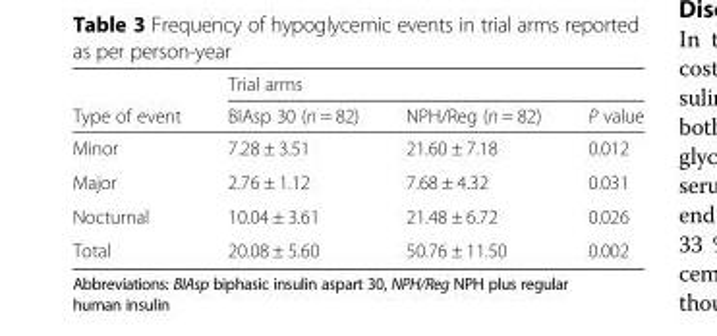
<table><thead><tr><td rowspan="2">Type of event</td><td colspan="3">Trial arms</td></tr><tr><td>BIAsp 30 (n = 82)</td><td>NPH/Reg (n = 82)</td><td>P value</td></tr></thead><tbody><tr><td>Minor</td><td>7.28 ± 3.51</td><td>21.60 ± 7.18</td><td>0.012</td></tr><tr><td>Major</td><td>2.76 ± 1.12</td><td>7.68 ± 4.32</td><td>0.031</td></tr><tr><td>Nocturnal</td><td>10.04 ± 3.61</td><td>21.48 ± 6.72</td><td>0.026</td></tr><tr><td>Total</td><td>20.08 ± 5.60</td><td>50.76 ± 11.50</td><td>0.002</td></tr></tbody></table>